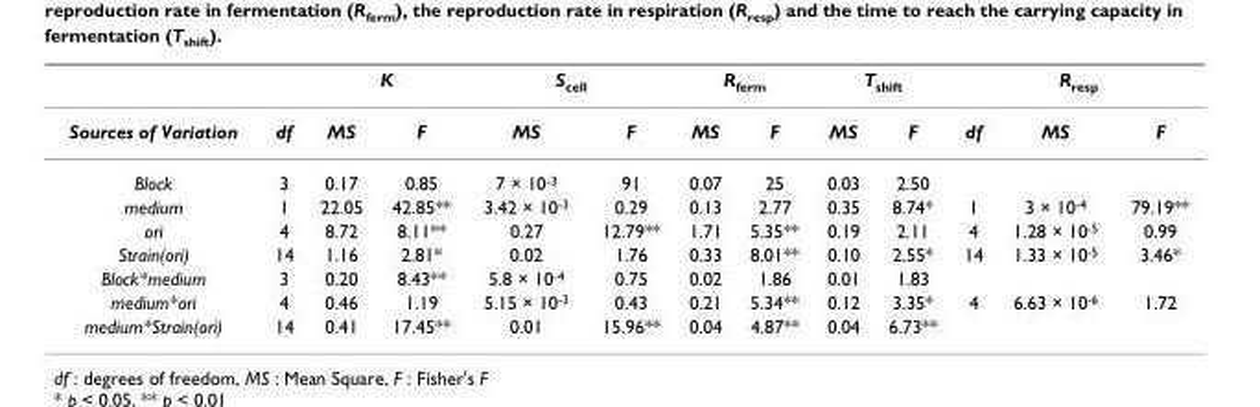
<table><thead><tr><td rowspan="2">Sources of Variation</td><td rowspan="2">df</td><td colspan="2">K</td><td colspan="2">S<sub>cell</sub></td><td colspan="2">R<sub>ferm</sub></td><td colspan="2">T<sub>shift</sub></td><td colspan="3">R<sub>resp</sub></td></tr><tr><td>MS</td><td>F</td><td>MS</td><td>F</td><td>MS</td><td>F</td><td>MS</td><td>F</td><td>df</td><td>MS</td><td>F</td></tr></thead><tbody><tr><td>Block</td><td>3</td><td>0.17</td><td>0.85</td><td>7 × 10<sup>-3</sup></td><td>91</td><td>0.07</td><td>25</td><td>0.03</td><td>2.50</td><td></td><td></td><td></td></tr><tr><td>medium</td><td>1</td><td>22.05</td><td>42.85**</td><td>3.42 × 10<sup>-3</sup></td><td>0.29</td><td>0.13</td><td>2.77</td><td>0.35</td><td>8.74*</td><td>1</td><td>3 × 10<sup>-4</sup></td><td>79.19**</td></tr><tr><td>ori</td><td>4</td><td>8.72</td><td>8.11**</td><td>0.27</td><td>12.79**</td><td>1.71</td><td>5.35**</td><td>0.19</td><td>2.11</td><td>4</td><td>1.28 × 10<sup>-5</sup></td><td>0.99</td></tr><tr><td>Strain(ori)</td><td>14</td><td>1.16</td><td>2.81*</td><td>0.02</td><td>1.76</td><td>0.33</td><td>8.01**</td><td>0.10</td><td>2.55*</td><td>14</td><td>1.33 × 10<sup>-5</sup></td><td>3.46*</td></tr><tr><td>Block*medium</td><td>3</td><td>0.20</td><td>8.43**</td><td>5.8 × 10<sup>-4</sup></td><td>0.75</td><td>0.02</td><td>1.86</td><td>0.01</td><td>1.83</td><td></td><td></td><td></td></tr><tr><td>medium*ori</td><td>4</td><td>0.46</td><td>1.19</td><td>5.15 × 10<sup>-3</sup></td><td>0.43</td><td>0.21</td><td>5.34**</td><td>0.12</td><td>3.35*</td><td>4</td><td>6.63 × 10<sup>-6</sup></td><td>1.72</td></tr><tr><td>medium*Strain(ori)</td><td>14</td><td>0.41</td><td>17.45**</td><td>0.01</td><td>15.96**</td><td>0.04</td><td>4.87**</td><td>0.04</td><td>6.73**</td><td></td><td></td><td></td></tr></tbody></table>